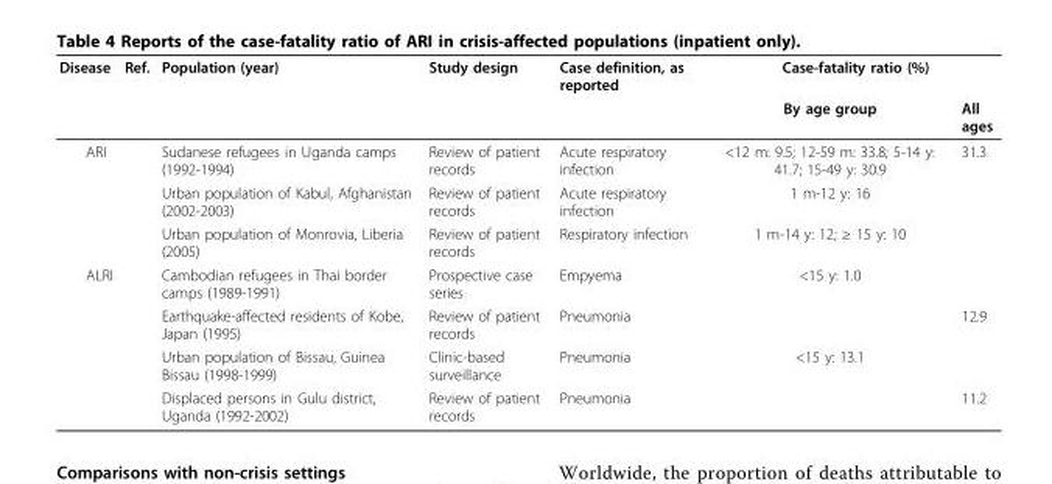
<table><tbody><tr><td rowspan="2">Disease</td><td>Ref.</td><td>Population (year)</td><td>Study design</td><td>Case definition, as reported</td><td colspan="2">Case-fatality ratio (%)</td></tr><tr><td></td><td></td><td></td><td></td><td>By age group</td><td>All ages</td></tr><tr><td rowspan="3">ARI</td><td></td><td>Sudanese refugees in Uganda camps (1992-1994)</td><td>Review of patient records</td><td>Acute respiratory infection</td><td>&lt;12 m: 9.5; 12-59 m: 33.8; 5-14 y: 41.7; 15-49 y: 30.9</td><td>31.3</td></tr><tr><td></td><td>Urban population of Kabul, Afghanistan (2002-2003)</td><td>Review of patient records</td><td>Acute respiratory infection</td><td>1 m-12 y: 16</td><td></td></tr><tr><td></td><td>Urban population of Monrovia, Liberia (2005)</td><td>Review of patient records</td><td>Respiratory infection</td><td>1 m-14 y: 12; ≥ 15 y: 10</td><td></td></tr><tr><td rowspan="4">ALRI</td><td></td><td>Cambodian refugees in Thai border camps (1989-1991)</td><td>Prospective case series</td><td>Empyema</td><td>&lt;15 y: 1.0</td><td></td></tr><tr><td></td><td>Earthquake-affected residents of Kobe, Japan (1995)</td><td>Review of patient records</td><td>Pneumonia</td><td></td><td>12.9</td></tr><tr><td></td><td>Urban population of Bissau, Guinea Bissau (1998-1999)</td><td>Clinic-based surveillance</td><td>Pneumonia</td><td>&lt;15 y: 13.1</td><td></td></tr><tr><td></td><td>Displaced persons in Gulu district, Uganda (1992-2002)</td><td>Review of patient records</td><td>Pneumonia</td><td></td><td>11.2</td></tr></tbody></table>